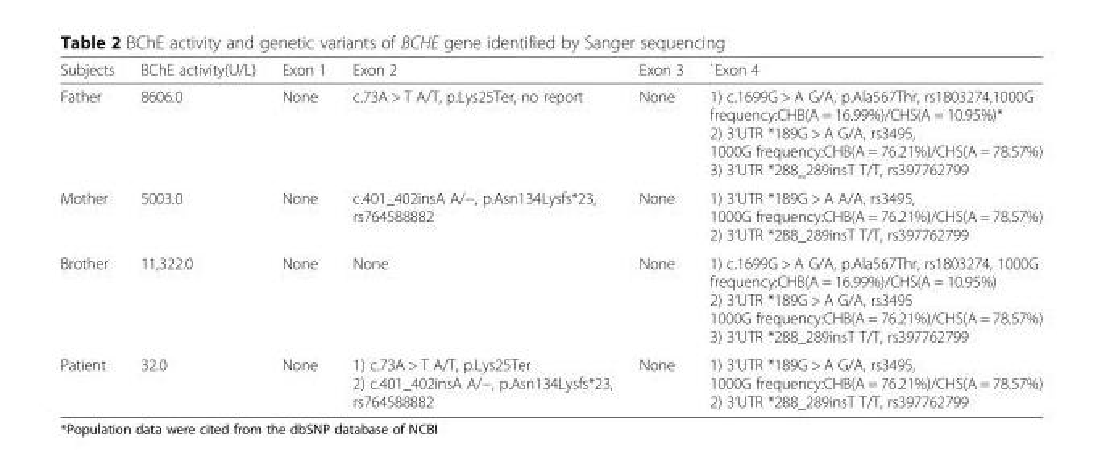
<table><thead><tr><td>Subjects</td><td>BChE activity(U/L)</td><td>Exon 1</td><td>Exon 2</td><td>Exon 3</td><td>`Exon 4</td></tr></thead><tbody><tr><td>Father</td><td>8606.0</td><td>None</td><td>c.73A &gt; T A/T, p.Lys25Ter, no report</td><td>None</td><td>1) c.1699G &gt; A G/A, p.Ala567Thr, rs1803274,1000G frequency:CHB(A = 16.99%)/CHS(A = 10.95%)* 2) 3’UTR *189G &gt; A G/A, rs3495, 1000G frequency:CHB(A = 76.21%)/CHS(A = 78.57%) 3) 3’UTR *288_289insT T/T, rs397762799</td></tr><tr><td>Mother</td><td>5003.0</td><td>None</td><td>c.401_402insA A/−, p.Asn134Lysfs*23, rs764588882</td><td>None</td><td>1) 3’UTR *189G &gt; A A/A, rs3495, 1000G frequency:CHB(A = 76.21%)/CHS(A = 78.57%) 2) 3’UTR *288_289insT T/T, rs397762799</td></tr><tr><td>Brother</td><td>11,322.0</td><td>None</td><td>None</td><td>None</td><td>1) c.1699G &gt; A G/A, p.Ala567Thr, rs1803274, 1000G frequency:CHB(A = 16.99%)/CHS(A = 10.95%) 2) 3’UTR *189G &gt; A G/A, rs3495 1000G frequency:CHB(A = 76.21%)/CHS(A = 78.57%) 3) 3’UTR *288_289insT T/T, rs397762799</td></tr><tr><td>Patient</td><td>32.0</td><td>None</td><td>1) c.73A &gt; T A/T, p.Lys25Ter 2) c.401_402insA A/−, p.Asn134Lysfs*23, rs764588882</td><td>None</td><td>1) 3’UTR *189G &gt; A G/A, rs3495, 1000G frequency:CHB(A = 76.21%)/CHS(A = 78.57%) 2) 3’UTR *288_289insT T/T, rs397762799</td></tr></tbody></table>